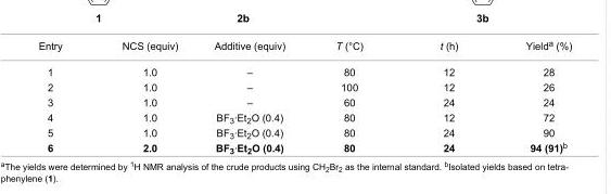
<table><tbody><tr><td>Entry</td><td>NCS (equiv)</td><td>Additive (equiv)</td><td>T (°C)</td><td>t (h)</td><td>Yield<sup>a</sup> (%)</td></tr><tr><td>1</td><td>1.0</td><td>–</td><td>80</td><td>12</td><td>28</td></tr><tr><td>2</td><td>1.0</td><td>–</td><td>100</td><td>12</td><td>26</td></tr><tr><td>3</td><td>1.0</td><td>–</td><td>60</td><td>24</td><td>24</td></tr><tr><td>4</td><td>1.0</td><td>BF<sub>3</sub>·Et<sub>2</sub>O (0.4)</td><td>80</td><td>12</td><td>72</td></tr><tr><td>5</td><td>1.0</td><td>BF<sub>3</sub>·Et<sub>2</sub>O (0.4)</td><td>80</td><td>24</td><td>90</td></tr><tr><td>6</td><td>2.0</td><td>BF<sub>3</sub>·Et<sub>2</sub>O (0.4)</td><td>80</td><td>24</td><td>94 (91)<sup>b</sup></td></tr></tbody></table>